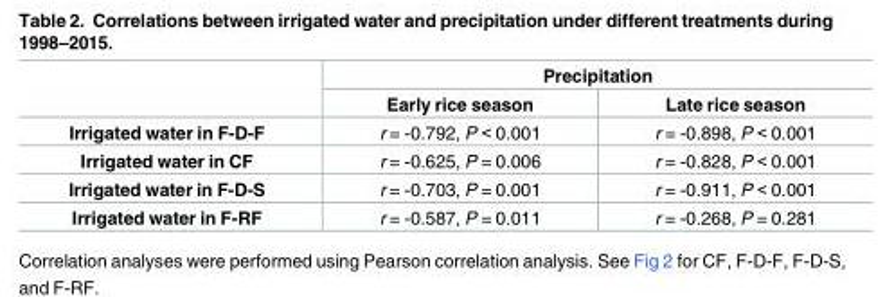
<table><thead><tr><td rowspan="2"></td><td colspan="2">Precipitation</td></tr><tr><td>Early rice season</td><td>Late rice season</td></tr></thead><tbody><tr><td>Irrigated water in F-D-F</td><td>r = -0.792, P &lt; 0.001</td><td>r = -0.898, P &lt; 0.001</td></tr><tr><td>Irrigated water in CF</td><td>r = -0.625, P = 0.006</td><td>r = -0.828, P &lt; 0.001</td></tr><tr><td>Irrigated water in F-D-S</td><td>r = -0.703, P = 0.001</td><td>r = -0.911, P &lt; 0.001</td></tr><tr><td>Irrigated water in F-RF</td><td>r = -0.587, P = 0.011</td><td>r = -0.268, P = 0.281</td></tr></tbody></table>